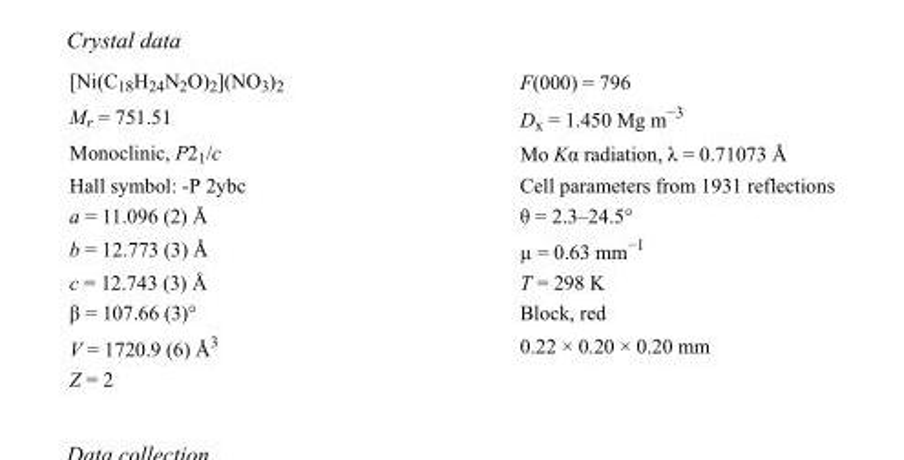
<table><tbody><tr><td>[Ni(C<sub>18</sub>H<sub>24</sub>N<sub>2</sub>O)<sub>2</sub>](NO<sub>3</sub>)<sub>2</sub></td><td>F(000) = 796</td></tr><tr><td>M<sub>r</sub> = 751.51</td><td>D<sub>x</sub> = 1.450 Mg m<sup>−3</sup></td></tr><tr><td>Monoclinic, P2<sub>1</sub>/c</td><td>Mo Kα radiation, λ = 0.71073 Å</td></tr><tr><td>Hall symbol: -P 2ybc</td><td>Cell parameters from 1931 reflections</td></tr><tr><td>a = 11.096 (2) Å</td><td>θ = 2.3–24.5°</td></tr><tr><td>b = 12.773 (3) Å</td><td>µ = 0.63 mm<sup>−1</sup></td></tr><tr><td>c = 12.743 (3) Å</td><td>T = 298 K</td></tr><tr><td>β = 107.66 (3)°</td><td>Block, red</td></tr><tr><td>V = 1720.9 (6) Å<sup>3</sup></td><td>0.22 × 0.20 × 0.20 mm</td></tr><tr><td>Z = 2</td><td></td></tr></tbody></table>